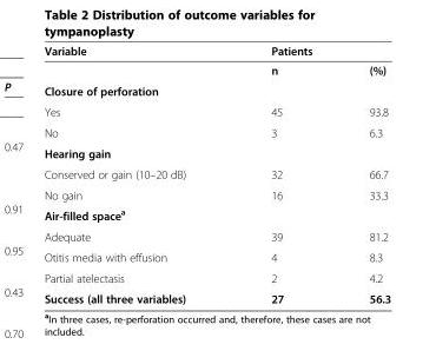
<table><thead><tr><td rowspan="2">Variable</td><td colspan="2">Patients</td></tr><tr><td>n</td><td>(%)</td></tr></thead><tbody><tr><td colspan="3">Closure of perforation</td></tr><tr><td>Yes</td><td>45</td><td>93.8</td></tr><tr><td>No</td><td>3</td><td>6.3</td></tr><tr><td colspan="3">Hearing gain</td></tr><tr><td>Conserved or gain (10–20 dB)</td><td>32</td><td>66.7</td></tr><tr><td>No gain</td><td>16</td><td>33.3</td></tr><tr><td colspan="3">Air-filled space<sup>a</sup></td></tr><tr><td>Adequate</td><td>39</td><td>81.2</td></tr><tr><td>Otitis media with effusion</td><td>4</td><td>8.3</td></tr><tr><td>Partial atelectasis</td><td>2</td><td>4.2</td></tr><tr><td>Success (all three variables)</td><td>27</td><td>56.3</td></tr></tbody></table>